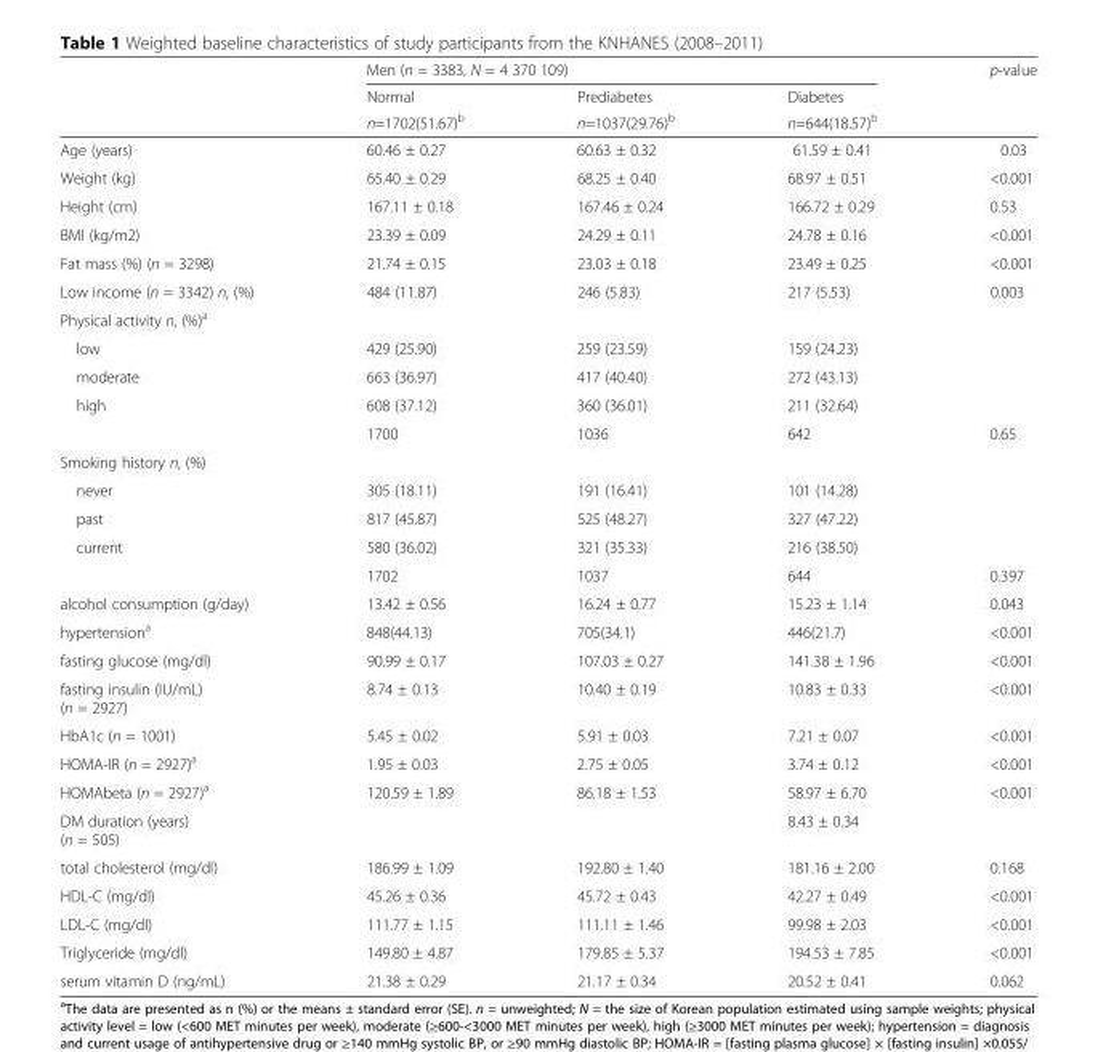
<table><thead><tr><td rowspan="3"></td><td colspan="3">Men (n = 3383, N = 4 370 109)</td><td rowspan="3">p-value</td></tr><tr><td rowspan="2">Normal n=1702(51.67)<sup>b</sup></td><td rowspan="2">Prediabetes n=1037(29.76)<sup>b</sup></td><td rowspan="2">Diabetes n=644(18.57)<sup>b</sup></td></tr><tr></tr></thead><tbody><tr><td>Age (years)</td><td>60.46 ± 0.27</td><td>60.63 ± 0.32</td><td>61.59 ± 0.41</td><td>0.03</td></tr><tr><td>Weight (kg)</td><td>65.40 ± 0.29</td><td>68.25 ± 0.40</td><td>68.97 ± 0.51</td><td>&lt;0.001</td></tr><tr><td>Height (cm)</td><td>167.11 ± 0.18</td><td>167.46 ± 0.24</td><td>166.72 ± 0.29</td><td>0.53</td></tr><tr><td>BMI (kg/m2)</td><td>23.39 ± 0.09</td><td>24.29 ± 0.11</td><td>24.78 ± 0.16</td><td>&lt;0.001</td></tr><tr><td>Fat mass (%) (n = 3298)</td><td>21.74 ± 0.15</td><td>23.03 ± 0.18</td><td>23.49 ± 0.25</td><td>&lt;0.001</td></tr><tr><td>Low income (n = 3342) n, (%)</td><td>484 (11.87)</td><td>246 (5.83)</td><td>217 (5.53)</td><td>0.003</td></tr><tr><td colspan="5">Physical activity n, (%)<sup>a</sup></td></tr><tr><td>low</td><td>429 (25.90)</td><td>259 (23.59)</td><td>159 (24.23)</td><td></td></tr><tr><td>moderate</td><td>663 (36.97)</td><td>417 (40.40)</td><td>272 (43.13)</td><td></td></tr><tr><td rowspan="2">high</td><td>608 (37.12)</td><td>360 (36.01)</td><td>211 (32.64)</td><td></td></tr><tr><td>1700</td><td>1036</td><td>642</td><td>0.65</td></tr><tr><td colspan="5">Smoking history n, (%)</td></tr><tr><td>never</td><td>305 (18.11)</td><td>191 (16.41)</td><td>101 (14.28)</td><td></td></tr><tr><td>past</td><td>817 (45.87)</td><td>525 (48.27)</td><td>327 (47.22)</td><td></td></tr><tr><td rowspan="2">current</td><td>580 (36.02)</td><td>321 (35.33)</td><td>216 (38.50)</td><td></td></tr><tr><td>1702</td><td>1037</td><td>644</td><td>0.397</td></tr><tr><td>alcohol consumption (g/day)</td><td>13.42 ± 0.56</td><td>16.24 ± 0.77</td><td>15.23 ± 1.14</td><td>0.043</td></tr><tr><td>hypertension<sup>a</sup></td><td>848(44.13)</td><td>705(34.1)</td><td>446(21.7)</td><td>&lt;0.001</td></tr><tr><td>fasting glucose (mg/dl)</td><td>90.99 ± 0.17</td><td>107.03 ± 0.27</td><td>141.38 ± 1.96</td><td>&lt;0.001</td></tr><tr><td>fasting insulin (IU/mL) (n = 2927)</td><td>8.74 ± 0.13</td><td>10.40 ± 0.19</td><td>10.83 ± 0.33</td><td>&lt;0.001</td></tr><tr><td>HbA1c (n = 1001)</td><td>5.45 ± 0.02</td><td>5.91 ± 0.03</td><td>7.21 ± 0.07</td><td>&lt;0.001</td></tr><tr><td>HOMA-IR (n = 2927)<sup>a</sup></td><td>1.95 ± 0.03</td><td>2.75 ± 0.05</td><td>3.74 ± 0.12</td><td>&lt;0.001</td></tr><tr><td>HOMAbeta (n = 2927)<sup>a</sup></td><td>120.59 ± 1.89</td><td>86.18 ± 1.53</td><td>58.97 ± 6.70</td><td>&lt;0.001</td></tr><tr><td>DM duration (years) (n = 505)</td><td></td><td></td><td>8.43 ± 0.34</td><td></td></tr><tr><td>total cholesterol (mg/dl)</td><td>186.99 ± 1.09</td><td>192.80 ± 1.40</td><td>181.16 ± 2.00</td><td>0.168</td></tr><tr><td>HDL-C (mg/dl)</td><td>45.26 ± 0.36</td><td>45.72 ± 0.43</td><td>42.27 ± 0.49</td><td>&lt;0.001</td></tr><tr><td>LDL-C (mg/dl)</td><td>111.77 ± 1.15</td><td>111.11 ± 1.46</td><td>99.98 ± 2.03</td><td>&lt;0.001</td></tr><tr><td>Triglyceride (mg/dl)</td><td>149.80 ± 4.87</td><td>179.85 ± 5.37</td><td>194.53 ± 7.85</td><td>&lt;0.001</td></tr><tr><td>serum vitamin D (ng/mL)</td><td>21.38 ± 0.29</td><td>21.17 ± 0.34</td><td>20.52 ± 0.41</td><td>0.062</td></tr></tbody></table>